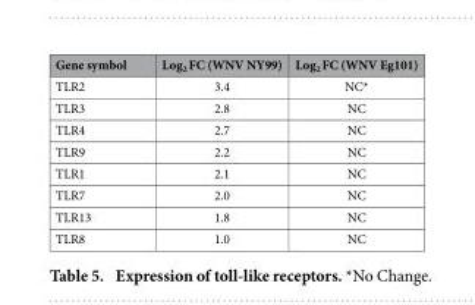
<table><thead><tr><td>Gene symbol</td><td>Log<sub>2</sub> FC (WNV NY99)</td><td>Log<sub>2</sub> FC (WNV Eg101)</td></tr></thead><tbody><tr><td>TLR2</td><td>3.4</td><td>NC*</td></tr><tr><td>TLR3</td><td>2.8</td><td>NC</td></tr><tr><td>TLR4</td><td>2.7</td><td>NC</td></tr><tr><td>TLR9</td><td>2.2</td><td>NC</td></tr><tr><td>TLR1</td><td>2.1</td><td>NC</td></tr><tr><td>TLR7</td><td>2.0</td><td>NC</td></tr><tr><td>TLR13</td><td>1.8</td><td>NC</td></tr><tr><td>TLR8</td><td>1.0</td><td>NC</td></tr></tbody></table>